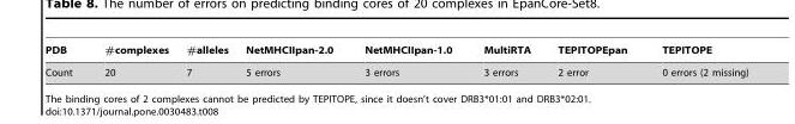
<table><thead><tr><td>PDB</td><td>#complexes</td><td>#alleles</td><td>NetMHCIIpan-2.0</td><td>NetMHCIIpan-1.0</td><td>MultiRTA</td><td>TEPITOPEpan</td><td>TEPITOPE</td></tr></thead><tbody><tr><td>Count</td><td>20</td><td>7</td><td>5 errors</td><td>3 errors</td><td>3 errors</td><td>2 error</td><td>0 errors (2 missing)</td></tr></tbody></table>